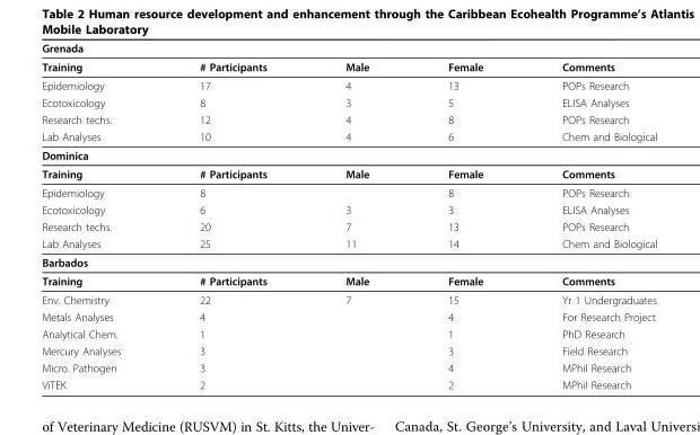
<table><thead><tr><td colspan="5">Grenada</td></tr><tr><td>Training</td><td># Participants</td><td>Male</td><td>Female</td><td>Comments</td></tr></thead><tbody><tr><td>Epidemiology</td><td>17</td><td>4</td><td>13</td><td>POPs Research</td></tr><tr><td>Ecotoxicology</td><td>8</td><td>3</td><td>5</td><td>ELISA Analyses</td></tr><tr><td>Research techs.</td><td>12</td><td>4</td><td>8</td><td>POPs Research</td></tr><tr><td>Lab Analyses</td><td>10</td><td>4</td><td>6</td><td>Chem and Biological</td></tr><tr><td colspan="5">Dominica</td></tr><tr><td>Training</td><td># Participants</td><td>Male</td><td>Female</td><td>Comments</td></tr><tr><td>Epidemiology</td><td>8</td><td></td><td>8</td><td>POPs Research</td></tr><tr><td>Ecotoxicology</td><td>6</td><td>3</td><td>3</td><td>ELISA Analyses</td></tr><tr><td>Research techs.</td><td>20</td><td>7</td><td>13</td><td>POPs Research</td></tr><tr><td>Lab Analyses</td><td>25</td><td>11</td><td>14</td><td>Chem and Biological</td></tr><tr><td colspan="5">Barbados</td></tr><tr><td>Training</td><td># Participants</td><td>Male</td><td>Female</td><td>Comments</td></tr><tr><td>Env. Chemistry</td><td>22</td><td>7</td><td>15</td><td>Yr 1 Undergraduates</td></tr><tr><td>Metals Analyses</td><td>4</td><td></td><td>4</td><td>For Research Project</td></tr><tr><td>Analytical Chem.</td><td>1</td><td></td><td>1</td><td>PhD Research</td></tr><tr><td>Mercury Analyses</td><td>3</td><td></td><td>3</td><td>Field Research</td></tr><tr><td>Micro. Pathogen</td><td>3</td><td></td><td>4</td><td>MPhil Research</td></tr><tr><td>ViTEK</td><td>2</td><td></td><td>2</td><td>MPhil Research</td></tr></tbody></table>